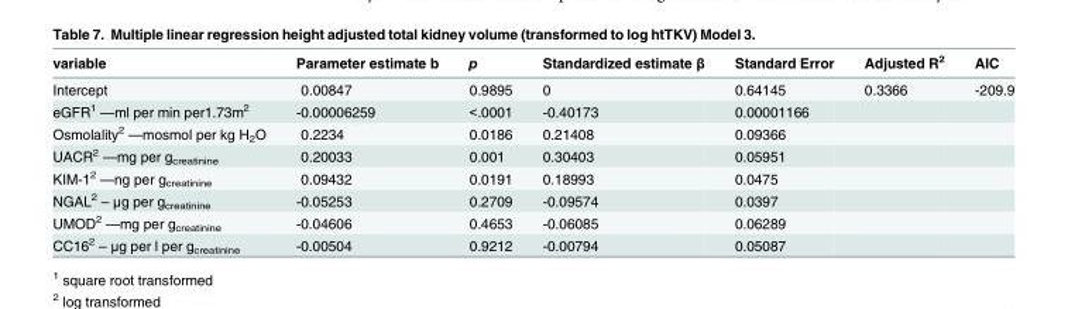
<table><thead><tr><td>variable</td><td>Parameter estimate b</td><td>p</td><td>Standardized estimate β</td><td>Standard Error</td><td>Adjusted R<sup>2</sup></td><td>AIC</td></tr></thead><tbody><tr><td>Intercept</td><td>0.00847</td><td>0.9895</td><td>0</td><td>0.64145</td><td>0.3366</td><td>-209.9</td></tr><tr><td>eGFR<sup>1</sup> —ml per min per1.73m<sup>2</sup></td><td>-0.00006259</td><td>&lt;.0001</td><td>-0.40173</td><td>0.00001166</td><td></td><td></td></tr><tr><td>Osmolality<sup>2</sup> —mosmol per kg H<sub>2</sub>O</td><td>0.2234</td><td>0.0186</td><td>0.21408</td><td>0.09366</td><td></td><td></td></tr><tr><td>UACR<sup>2</sup> —mg per g<sub>creatinine</sub></td><td>0.20033</td><td>0.001</td><td>0.30403</td><td>0.05951</td><td></td><td></td></tr><tr><td>KIM-1<sup>2</sup> —ng per g<sub>creatinine</sub></td><td>0.09432</td><td>0.0191</td><td>0.18993</td><td>0.0475</td><td></td><td></td></tr><tr><td>NGAL<sup>2</sup> – μg per g<sub>creatinine</sub></td><td>-0.05253</td><td>0.2709</td><td>-0.09574</td><td>0.0397</td><td></td><td></td></tr><tr><td>UMOD<sup>2</sup> —mg per g<sub>creatinine</sub></td><td>-0.04606</td><td>0.4653</td><td>-0.06085</td><td>0.06289</td><td></td><td></td></tr><tr><td>CC16<sup>2</sup> – μg per l per g<sub>creatinine</sub></td><td>-0.00504</td><td>0.9212</td><td>-0.00794</td><td>0.05087</td><td></td><td></td></tr></tbody></table>